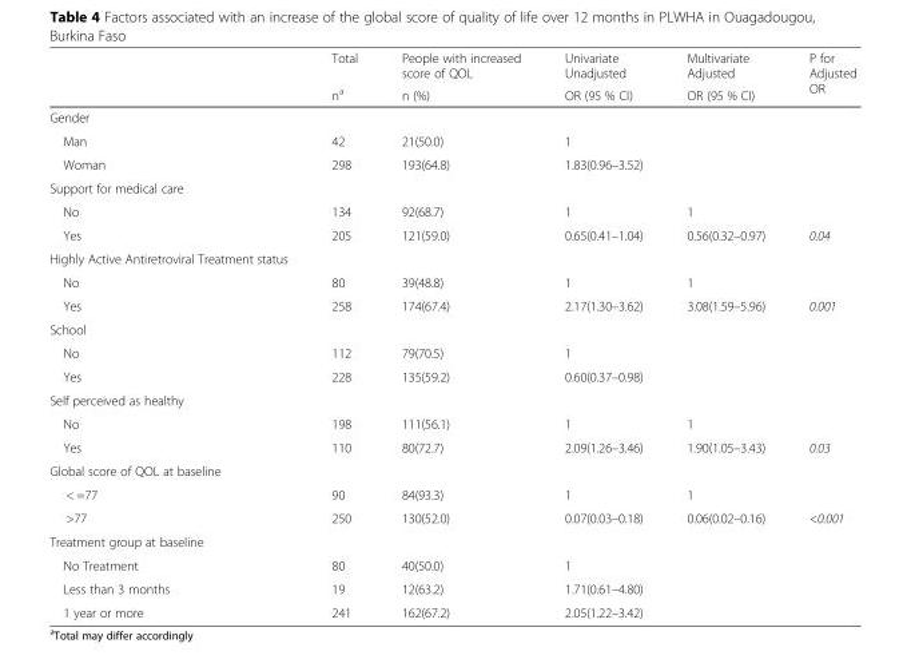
<table><thead><tr><td rowspan="2"></td><td rowspan="2">Total n<sup>a</sup></td><td rowspan="2">People with increased score of QOL n (%)</td><td rowspan="2">Univariate Unadjusted OR (95 % CI)</td><td rowspan="2">Multivariate Adjusted OR (95 % CI)</td><td rowspan="2">P for Adjusted OR</td></tr><tr></tr></thead><tbody><tr><td colspan="6">Gender</td></tr><tr><td>Man</td><td>42</td><td>21(50.0)</td><td>1</td><td></td><td></td></tr><tr><td>Woman</td><td>298</td><td>193(64.8)</td><td>1.83(0.96–3.52)</td><td></td><td></td></tr><tr><td colspan="6">Support for medical care</td></tr><tr><td>No</td><td>134</td><td>92(68.7)</td><td>1</td><td>1</td><td></td></tr><tr><td>Yes</td><td>205</td><td>121(59.0)</td><td>0.65(0.41–1.04)</td><td>0.56(0.32–0.97)</td><td>0.04</td></tr><tr><td colspan="6">Highly Active Antiretroviral Treatment status</td></tr><tr><td>No</td><td>80</td><td>39(48.8)</td><td>1</td><td>1</td><td></td></tr><tr><td>Yes</td><td>258</td><td>174(67.4)</td><td>2.17(1.30–3.62)</td><td>3.08(1.59–5.96)</td><td>0.001</td></tr><tr><td colspan="6">School</td></tr><tr><td>No</td><td>112</td><td>79(70.5)</td><td>1</td><td></td><td></td></tr><tr><td>Yes</td><td>228</td><td>135(59.2)</td><td>0.60(0.37–0.98)</td><td></td><td></td></tr><tr><td colspan="6">Self perceived as healthy</td></tr><tr><td>No</td><td>198</td><td>111(56.1)</td><td>1</td><td>1</td><td></td></tr><tr><td>Yes</td><td>110</td><td>80(72.7)</td><td>2.09(1.26–3.46)</td><td>1.90(1.05–3.43)</td><td>0.03</td></tr><tr><td colspan="6">Global score of QOL at baseline</td></tr><tr><td>&lt; =77</td><td>90</td><td>84(93.3)</td><td>1</td><td>1</td><td></td></tr><tr><td>&gt;77</td><td>250</td><td>130(52.0)</td><td>0.07(0.03–0.18)</td><td>0.06(0.02–0.16)</td><td>&lt;0.001</td></tr><tr><td colspan="6">Treatment group at baseline</td></tr><tr><td>No Treatment</td><td>80</td><td>40(50.0)</td><td>1</td><td></td><td></td></tr><tr><td>Less than 3 months</td><td>19</td><td>12(63.2)</td><td>1.71(0.61–4.80)</td><td></td><td></td></tr><tr><td>1 year or more</td><td>241</td><td>162(67.2)</td><td>2.05(1.22–3.42)</td><td></td><td></td></tr></tbody></table>